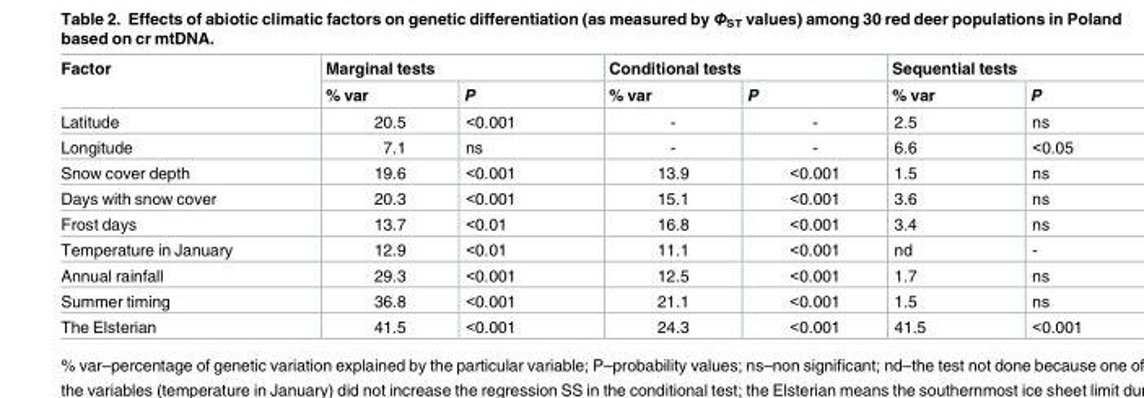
<table><thead><tr><td rowspan="2">Factor</td><td colspan="2">Marginal tests</td><td colspan="2">Conditional tests</td><td colspan="2">Sequential tests</td></tr><tr><td>% var</td><td>P</td><td>% var</td><td>P</td><td>% var</td><td>P</td></tr></thead><tbody><tr><td>Latitude</td><td>20.5</td><td>&lt;0.001</td><td>-</td><td>-</td><td>2.5</td><td>ns</td></tr><tr><td>Longitude</td><td>7.1</td><td>ns</td><td>-</td><td>-</td><td>6.6</td><td>&lt;0.05</td></tr><tr><td>Snow cover depth</td><td>19.6</td><td>&lt;0.001</td><td>13.9</td><td>&lt;0.001</td><td>1.5</td><td>ns</td></tr><tr><td>Days with snow cover</td><td>20.3</td><td>&lt;0.001</td><td>15.1</td><td>&lt;0.001</td><td>3.6</td><td>ns</td></tr><tr><td>Frost days</td><td>13.7</td><td>&lt;0.01</td><td>16.8</td><td>&lt;0.001</td><td>3.4</td><td>ns</td></tr><tr><td>Temperature in January</td><td>12.9</td><td>&lt;0.01</td><td>11.1</td><td>&lt;0.001</td><td>nd</td><td>-</td></tr><tr><td>Annual rainfall</td><td>29.3</td><td>&lt;0.001</td><td>12.5</td><td>&lt;0.001</td><td>1.7</td><td>ns</td></tr><tr><td>Summer timing</td><td>36.8</td><td>&lt;0.001</td><td>21.1</td><td>&lt;0.001</td><td>1.5</td><td>ns</td></tr><tr><td>The Elsterian</td><td>41.5</td><td>&lt;0.001</td><td>24.3</td><td>&lt;0.001</td><td>41.5</td><td>&lt;0.001</td></tr></tbody></table>